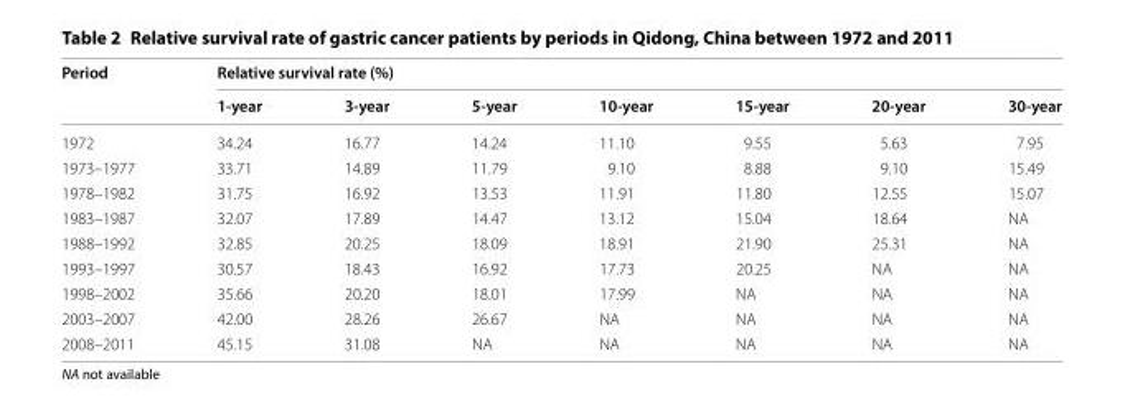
<table><thead><tr><td rowspan="2">Period</td><td colspan="7">Relative survival rate (%)</td></tr><tr><td>1‑year</td><td>3‑year</td><td>5‑year</td><td>10‑year</td><td>15‑year</td><td>20‑year</td><td>30‑year</td></tr></thead><tbody><tr><td>1972</td><td>34.24</td><td>16.77</td><td>14.24</td><td>11.10</td><td>9.55</td><td>5.63</td><td>7.95</td></tr><tr><td>1973–1977</td><td>33.71</td><td>14.89</td><td>11.79</td><td>9.10</td><td>8.88</td><td>9.10</td><td>15.49</td></tr><tr><td>1978–1982</td><td>31.75</td><td>16.92</td><td>13.53</td><td>11.91</td><td>11.80</td><td>12.55</td><td>15.07</td></tr><tr><td>1983–1987</td><td>32.07</td><td>17.89</td><td>14.47</td><td>13.12</td><td>15.04</td><td>18.64</td><td>NA</td></tr><tr><td>1988–1992</td><td>32.85</td><td>20.25</td><td>18.09</td><td>18.91</td><td>21.90</td><td>25.31</td><td>NA</td></tr><tr><td>1993–1997</td><td>30.57</td><td>18.43</td><td>16.92</td><td>17.73</td><td>20.25</td><td>NA</td><td>NA</td></tr><tr><td>1998–2002</td><td>35.66</td><td>20.20</td><td>18.01</td><td>17.99</td><td>NA</td><td>NA</td><td>NA</td></tr><tr><td>2003–2007</td><td>42.00</td><td>28.26</td><td>26.67</td><td>NA</td><td>NA</td><td>NA</td><td>NA</td></tr><tr><td>2008–2011</td><td>45.15</td><td>31.08</td><td>NA</td><td>NA</td><td>NA</td><td>NA</td><td>NA</td></tr></tbody></table>